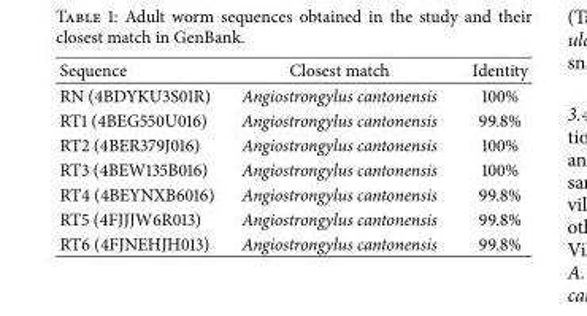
<table><thead><tr><td>Sequence</td><td>Closest match</td><td>Identity</td></tr></thead><tbody><tr><td>RN (4BDYKU3S01R)</td><td>Angiostrongylus cantonensis</td><td>100%</td></tr><tr><td>RT1 (4BEG550U016)</td><td>Angiostrongylus cantonensis</td><td>99.8%</td></tr><tr><td>RT2 (4BER379J016)</td><td>Angiostrongylus cantonensis</td><td>100%</td></tr><tr><td>RT3 (4BEW135B016)</td><td>Angiostrongylus cantonensis</td><td>100%</td></tr><tr><td>RT4 (4BEYNXB6016)</td><td>Angiostrongylus cantonensis</td><td>99.8%</td></tr><tr><td>RT5 (4FJJJW6R013)</td><td>Angiostrongylus cantonensis</td><td>99.8%</td></tr><tr><td>RT6 (4FJNEHJH013)</td><td>Angiostrongylus cantonensis</td><td>99.8%</td></tr></tbody></table>